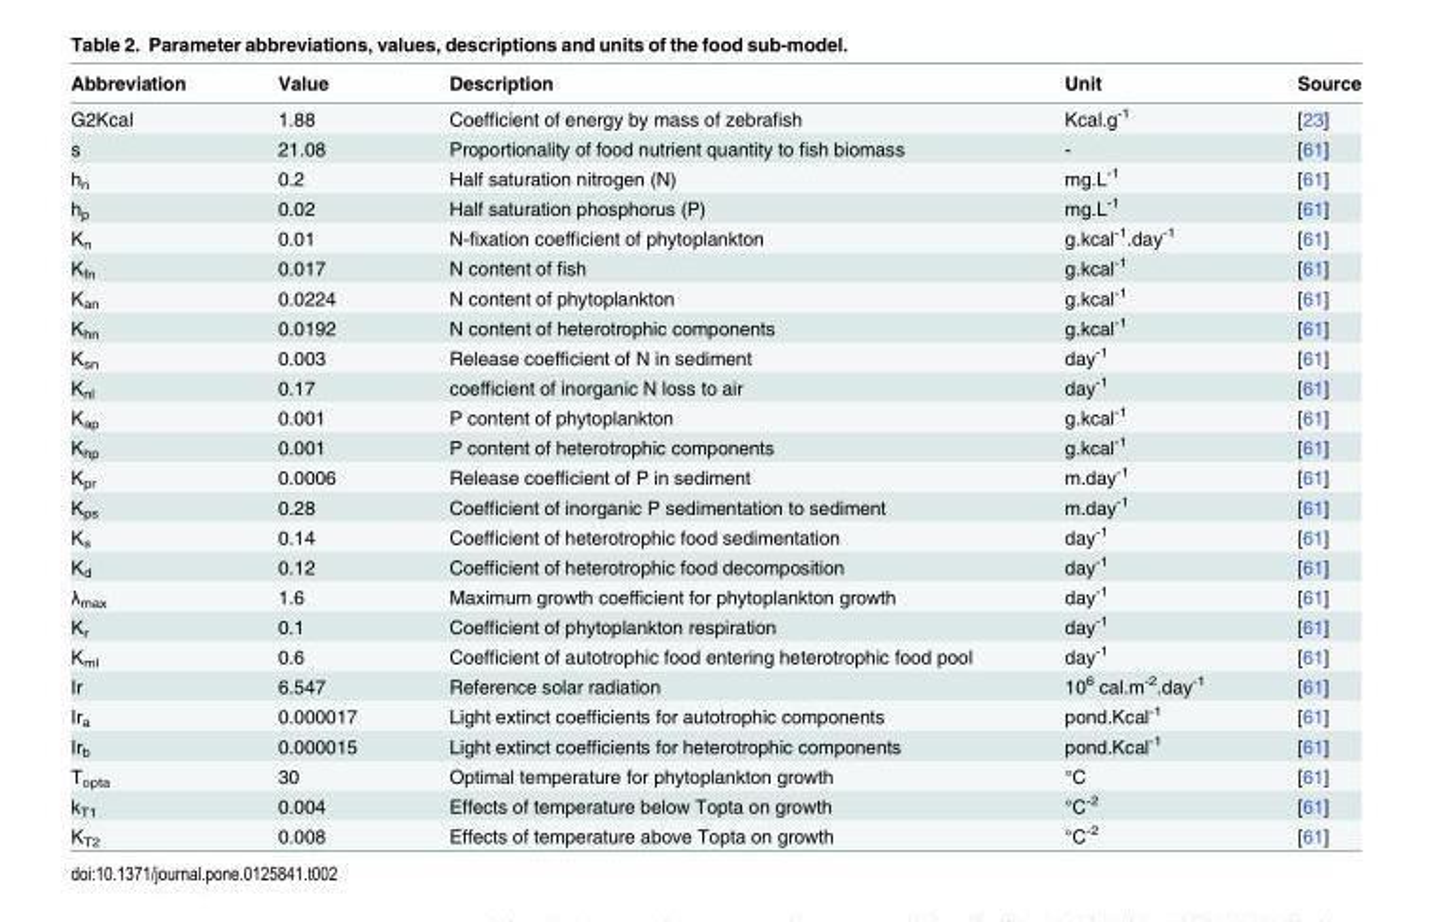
<table><thead><tr><td>Abbreviation</td><td>Value</td><td>Description</td><td>Unit</td><td>Source</td></tr></thead><tbody><tr><td>G2Kcal</td><td>1.88</td><td>Coefficient of energy by mass of zebrafish</td><td>Kcal.g<sup>-1</sup></td><td>[23]</td></tr><tr><td>s</td><td>21.08</td><td>Proportionality of food nutrient quantity to fish biomass</td><td>-</td><td>[61]</td></tr><tr><td>h<sub>n</sub></td><td>0.2</td><td>Half saturation nitrogen (N)</td><td>mg.L<sup>-1</sup></td><td>[61]</td></tr><tr><td>h<sub>p</sub></td><td>0.02</td><td>Half saturation phosphorus (P)</td><td>mg.L<sup>-1</sup></td><td>[61]</td></tr><tr><td>K<sub>n</sub></td><td>0.01</td><td>N-fixation coefficient of phytoplankton</td><td>g.kcal<sup>-1</sup>.day<sup>-1</sup></td><td>[61]</td></tr><tr><td>K<sub>fn</sub></td><td>0.017</td><td>N content of fish</td><td>g.kcal<sup>-1</sup></td><td>[61]</td></tr><tr><td>K<sub>an</sub></td><td>0.0224</td><td>N content of phytoplankton</td><td>g.kcal<sup>-1</sup></td><td>[61]</td></tr><tr><td>K<sub>hn</sub></td><td>0.0192</td><td>N content of heterotrophic components</td><td>g.kcal<sup>-1</sup></td><td>[61]</td></tr><tr><td>K<sub>sn</sub></td><td>0.003</td><td>Release coefficient of N in sediment</td><td>day<sup>-1</sup></td><td>[61]</td></tr><tr><td>K<sub>nl</sub></td><td>0.17</td><td>coefficient of inorganic N loss to air</td><td>day<sup>-1</sup></td><td>[61]</td></tr><tr><td>K<sub>ap</sub></td><td>0.001</td><td>P content of phytoplankton</td><td>g.kcal<sup>-1</sup></td><td>[61]</td></tr><tr><td>K<sub>hp</sub></td><td>0.001</td><td>P content of heterotrophic components</td><td>g.kcal<sup>-1</sup></td><td>[61]</td></tr><tr><td>K<sub>pr</sub></td><td>0.0006</td><td>Release coefficient of P in sediment</td><td>m.day<sup>-1</sup></td><td>[61]</td></tr><tr><td>K<sub>ps</sub></td><td>0.28</td><td>Coefficient of inorganic P sedimentation to sediment</td><td>m.day<sup>-1</sup></td><td>[61]</td></tr><tr><td>K<sub>s</sub></td><td>0.14</td><td>Coefficient of heterotrophic food sedimentation</td><td>day<sup>-1</sup></td><td>[61]</td></tr><tr><td>K<sub>d</sub></td><td>0.12</td><td>Coefficient of heterotrophic food decomposition</td><td>day<sup>-1</sup></td><td>[61]</td></tr><tr><td>λ<sub>max</sub></td><td>1.6</td><td>Maximum growth coefficient for phytoplankton growth</td><td>day<sup>-1</sup></td><td>[61]</td></tr><tr><td>K<sub>r</sub></td><td>0.1</td><td>Coefficient of phytoplankton respiration</td><td>day<sup>-1</sup></td><td>[61]</td></tr><tr><td>K<sub>ml</sub></td><td>0.6</td><td>Coefficient of autotrophic food entering heterotrophic food pool</td><td>day<sup>-1</sup></td><td>[61]</td></tr><tr><td>Ir</td><td>6.547</td><td>Reference solar radiation</td><td>10<sup>6</sup> cal.m<sup>-2</sup>.day<sup>-1</sup></td><td>[61]</td></tr><tr><td>Ir<sub>a</sub></td><td>0.000017</td><td>Light extinct coefficients for autotrophic components</td><td>pond.Kcal<sup>-1</sup></td><td>[61]</td></tr><tr><td>Ir<sub>b</sub></td><td>0.000015</td><td>Light extinct coefficients for heterotrophic components</td><td>pond.Kcal<sup>-1</sup></td><td>[61]</td></tr><tr><td>T<sub>opta</sub></td><td>30</td><td>Optimal temperature for phytoplankton growth</td><td>°C</td><td>[61]</td></tr><tr><td>k<sub>T1</sub></td><td>0.004</td><td>Effects of temperature below Topta on growth</td><td>°C<sup>-2</sup></td><td>[61]</td></tr><tr><td>K<sub>T2</sub></td><td>0.008</td><td>Effects of temperature above Topta on growth</td><td>°C<sup>-2</sup></td><td>[61]</td></tr></tbody></table>